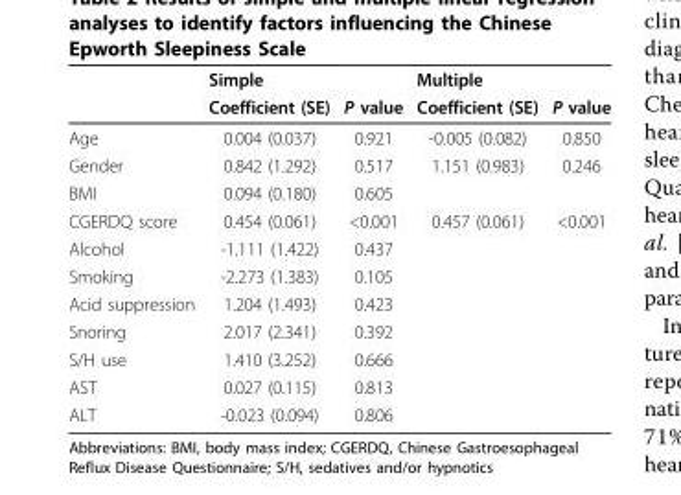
<table><thead><tr><td rowspan="2"></td><td colspan="2">Simple</td><td colspan="2">Multiple</td></tr><tr><td>Coefficient (SE)</td><td>P value</td><td>Coefficient (SE)</td><td>P value</td></tr></thead><tbody><tr><td>Age</td><td>0.004 (0.037)</td><td>0.921</td><td>-0.005 (0.082)</td><td>0.850</td></tr><tr><td>Gender</td><td>0.842 (1.292)</td><td>0.517</td><td>1.151 (0.983)</td><td>0.246</td></tr><tr><td>BMI</td><td>0.094 (0.180)</td><td>0.605</td><td></td><td></td></tr><tr><td>CGERDQ score</td><td>0.454 (0.061)</td><td>&lt;0.001</td><td>0.457 (0.061)</td><td>&lt;0.001</td></tr><tr><td>Alcohol</td><td>-1.111 (1.422)</td><td>0.437</td><td></td><td></td></tr><tr><td>Smoking</td><td>-2.273 (1.383)</td><td>0.105</td><td></td><td></td></tr><tr><td>Acid suppression</td><td>1.204 (1.493)</td><td>0.423</td><td></td><td></td></tr><tr><td>Snoring</td><td>2.017 (2.341)</td><td>0.392</td><td></td><td></td></tr><tr><td>S/H use</td><td>1.410 (3.252)</td><td>0.666</td><td></td><td></td></tr><tr><td>AST</td><td>0.027 (0.115)</td><td>0.813</td><td></td><td></td></tr><tr><td>ALT</td><td>-0.023 (0.094)</td><td>0.806</td><td></td><td></td></tr></tbody></table>